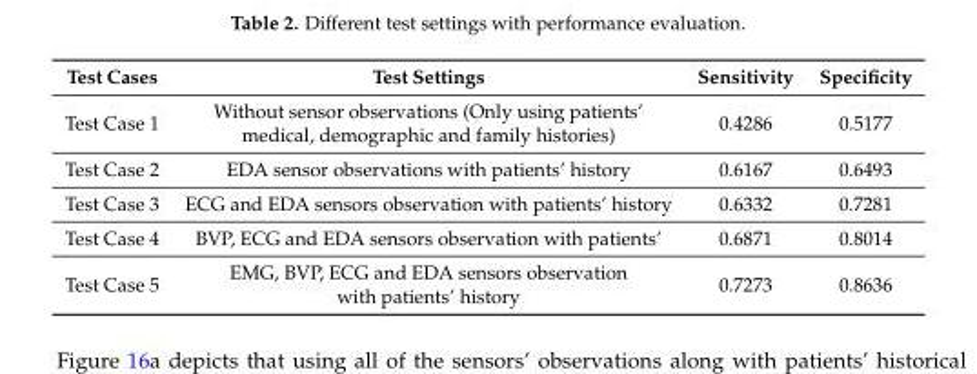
<table><thead><tr><td>Test Cases</td><td>Test Settings</td><td>Sensitivity</td><td>Specificity</td></tr></thead><tbody><tr><td>Test Case 1</td><td>Without sensor observations (Only using patients’ medical, demographic and family histories)</td><td>0.4286</td><td>0.5177</td></tr><tr><td>Test Case 2</td><td>EDA sensor observations with patients’ history</td><td>0.6167</td><td>0.6493</td></tr><tr><td>Test Case 3</td><td>ECG and EDA sensors observation with patients’ history</td><td>0.6332</td><td>0.7281</td></tr><tr><td>Test Case 4</td><td>BVP, ECG and EDA sensors observation with patients’</td><td>0.6871</td><td>0.8014</td></tr><tr><td>Test Case 5</td><td>EMG, BVP, ECG and EDA sensors observation with patients’ history</td><td>0.7273</td><td>0.8636</td></tr></tbody></table>